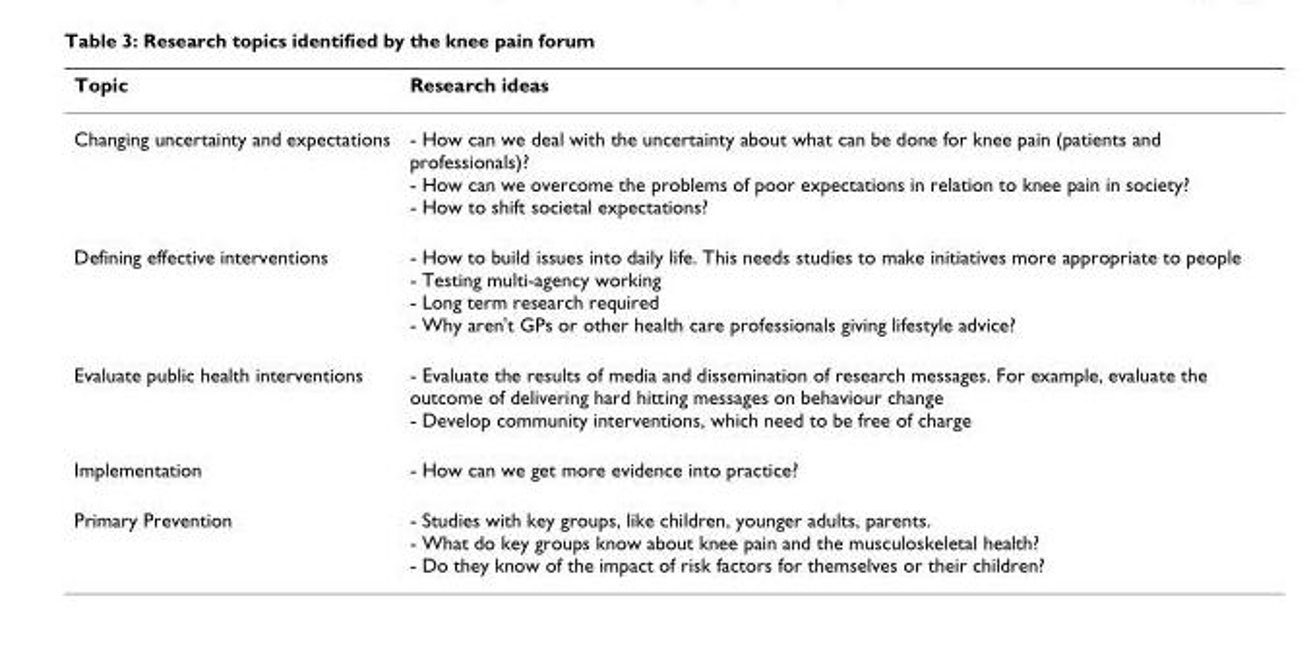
<table><thead><tr><td>Topic</td><td>Research ideas</td></tr></thead><tbody><tr><td>Changing uncertainty and expectations</td><td>- How can we deal with the uncertainty about what can be done for knee pain (patients and professionals)? - How can we overcome the problems of poor expectations in relation to knee pain in society? - How to shift societal expectations?</td></tr><tr><td>Defining effective interventions</td><td>- How to build issues into daily life. This needs studies to make initiatives more appropriate to people - Testing multi-agency working - Long term research required - Why aren&#x27;t GPs or other health care professionals giving lifestyle advice?</td></tr><tr><td>Evaluate public health interventions</td><td>- Evaluate the results of media and dissemination of research messages. For example, evaluate the outcome of delivering hard hitting messages on behaviour change - Develop community interventions, which need to be free of charge</td></tr><tr><td>Implementation</td><td>- How can we get more evidence into practice?</td></tr><tr><td>Primary Prevention</td><td>- Studies with key groups, like children, younger adults, parents. - What do key groups know about knee pain and the musculoskeletal health? - Do they know of the impact of risk factors for themselves or their children?</td></tr></tbody></table>